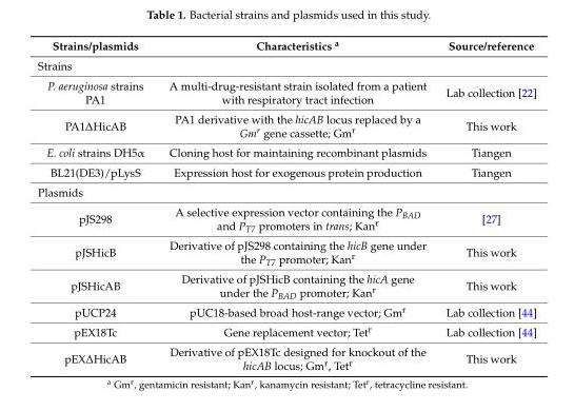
<table><thead><tr><td>Strains/plasmids</td><td>Characteristics <sup>a</sup></td><td>Source/reference</td></tr></thead><tbody><tr><td colspan="3">Strains</td></tr><tr><td>P. aeruginosa strains PA1</td><td>A multi-drug-resistant strain isolated from a patient with respiratory tract infection</td><td>Lab collection [22]</td></tr><tr><td>PA1∆HicAB</td><td>PA1 derivative with the hicAB locus replaced by a Gm<sup>r</sup> gene cassette; Gm<sup>r</sup></td><td>This work</td></tr><tr><td>E. coli strains DH5α</td><td>Cloning host for maintaining recombinant plasmids</td><td>Tiangen</td></tr><tr><td>BL21(DE3)/pLysS</td><td>Expression host for exogenous protein production</td><td>Tiangen</td></tr><tr><td colspan="3">Plasmids</td></tr><tr><td>pJS298</td><td>A selective expression vector containing the P<sub>BAD</sub> and P<sub>T7</sub> promoters in trans; Kan<sup>r</sup></td><td>[27]</td></tr><tr><td>pJSHicB</td><td>Derivative of pJS298 containing the hicB gene under the P<sub>T7</sub> promoter; Kan<sup>r</sup></td><td>This work</td></tr><tr><td>pJSHicAB</td><td>Derivative of pJSHicB containing the hicA gene under the P<sub>BAD</sub> promoter; Kan<sup>r</sup></td><td>This work</td></tr><tr><td>pUCP24</td><td>pUC18-based broad host-range vector; Gm<sup>r</sup></td><td>Lab collection [44]</td></tr><tr><td>pEX18Tc</td><td>Gene replacement vector; Tet<sup>r</sup></td><td>Lab collection [44]</td></tr><tr><td>pEX∆HicAB</td><td>Derivative of pEX18Tc designed for knockout of the hicAB locus; Gm<sup>r</sup>, Tet<sup>r</sup></td><td>This work</td></tr></tbody></table>